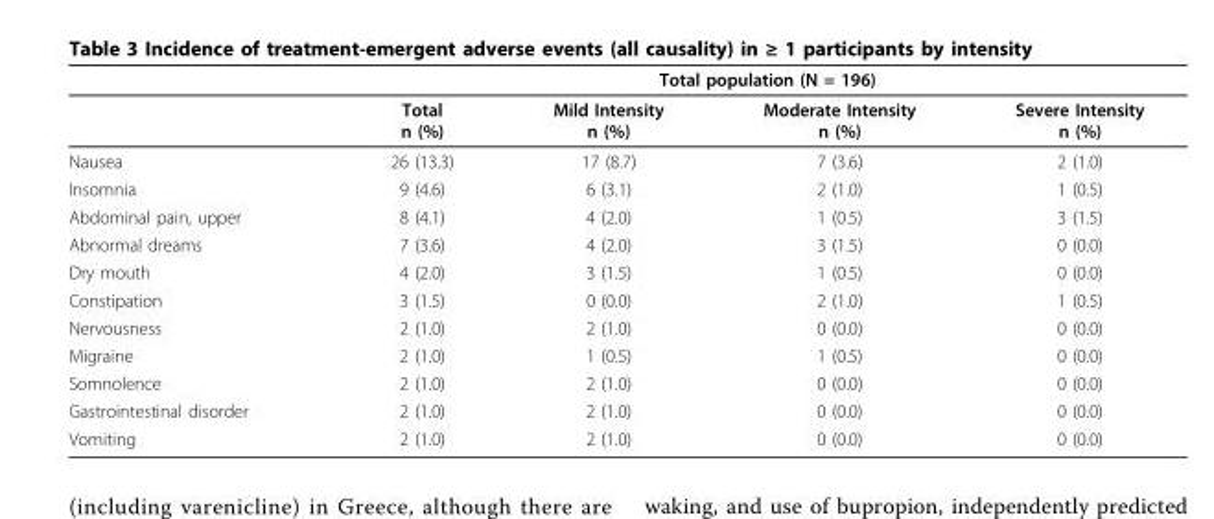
<table><thead><tr><td rowspan="2"></td><td colspan="4">Total population (N = 196)</td></tr><tr><td>Total n (%)</td><td>Mild Intensity n (%)</td><td>Moderate Intensity n (%)</td><td>Severe Intensity n (%)</td></tr></thead><tbody><tr><td>Nausea</td><td>26 (13.3)</td><td>17 (8.7)</td><td>7 (3.6)</td><td>2 (1.0)</td></tr><tr><td>Insomnia</td><td>9 (4.6)</td><td>6 (3.1)</td><td>2 (1.0)</td><td>1 (0.5)</td></tr><tr><td>Abdominal pain, upper</td><td>8 (4.1)</td><td>4 (2.0)</td><td>1 (0.5)</td><td>3 (1.5)</td></tr><tr><td>Abnormal dreams</td><td>7 (3.6)</td><td>4 (2.0)</td><td>3 (1.5)</td><td>0 (0.0)</td></tr><tr><td>Dry mouth</td><td>4 (2.0)</td><td>3 (1.5)</td><td>1 (0.5)</td><td>0 (0.0)</td></tr><tr><td>Constipation</td><td>3 (1.5)</td><td>0 (0.0)</td><td>2 (1.0)</td><td>1 (0.5)</td></tr><tr><td>Nervousness</td><td>2 (1.0)</td><td>2 (1.0)</td><td>0 (0.0)</td><td>0 (0.0)</td></tr><tr><td>Migraine</td><td>2 (1.0)</td><td>1 (0.5)</td><td>1 (0.5)</td><td>0 (0.0)</td></tr><tr><td>Somnolence</td><td>2 (1.0)</td><td>2 (1.0)</td><td>0 (0.0)</td><td>0 (0.0)</td></tr><tr><td>Gastrointestinal disorder</td><td>2 (1.0)</td><td>2 (1.0)</td><td>0 (0.0)</td><td>0 (0.0)</td></tr><tr><td>Vomiting</td><td>2 (1.0)</td><td>2 (1.0)</td><td>0 (0.0)</td><td>0 (0.0)</td></tr></tbody></table>